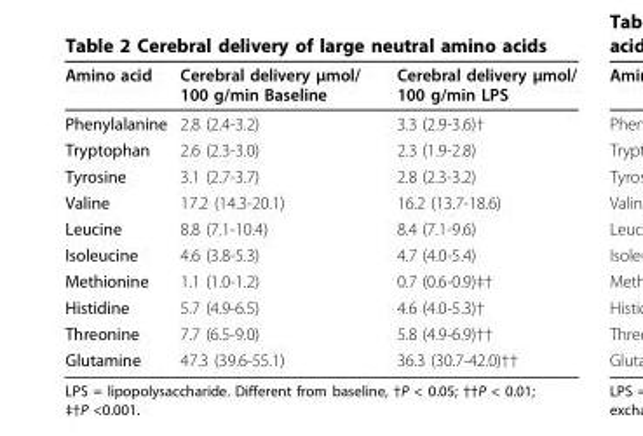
<table><thead><tr><td>Amino acid</td><td>Cerebral delivery μmol/ 100 g/min Baseline</td><td>Cerebral delivery μmol/ 100 g/min LPS</td></tr></thead><tbody><tr><td>Phenylalanine</td><td>2.8 (2.4-3.2)</td><td>3.3 (2.9-3.6)†</td></tr><tr><td>Tryptophan</td><td>2.6 (2.3-3.0)</td><td>2.3 (1.9-2.8)</td></tr><tr><td>Tyrosine</td><td>3.1 (2.7-3.7)</td><td>2.8 (2.3-3.2)</td></tr><tr><td>Valine</td><td>17.2 (14.3-20.1)</td><td>16.2 (13.7-18.6)</td></tr><tr><td>Leucine</td><td>8.8 (7.1-10.4)</td><td>8.4 (7.1-9.6)</td></tr><tr><td>Isoleucine</td><td>4.6 (3.8-5.3)</td><td>4.7 (4.0-5.4)</td></tr><tr><td>Methionine</td><td>1.1 (1.0-1.2)</td><td>0.7 (0.6-0.9)‡†</td></tr><tr><td>Histidine</td><td>5.7 (4.9-6.5)</td><td>4.6 (4.0-5.3)†</td></tr><tr><td>Threonine</td><td>7.7 (6.5-9.0)</td><td>5.8 (4.9-6.9)††</td></tr><tr><td>Glutamine</td><td>47.3 (39.6-55.1)</td><td>36.3 (30.7-42.0)††</td></tr></tbody></table>